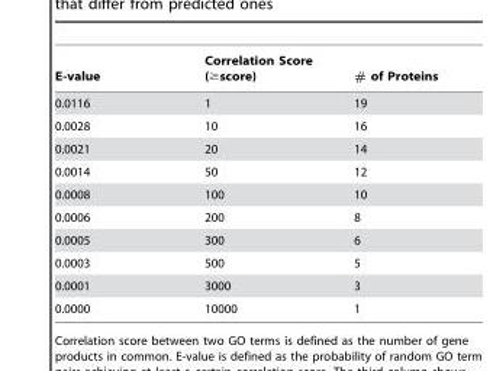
<table><thead><tr><td>E-value</td><td>Correlation Score (≥score)</td><td># of Proteins</td></tr></thead><tbody><tr><td>0.0116</td><td>1</td><td>19</td></tr><tr><td>0.0028</td><td>10</td><td>16</td></tr><tr><td>0.0021</td><td>20</td><td>14</td></tr><tr><td>0.0014</td><td>50</td><td>12</td></tr><tr><td>0.0008</td><td>100</td><td>10</td></tr><tr><td>0.0006</td><td>200</td><td>8</td></tr><tr><td>0.0005</td><td>300</td><td>6</td></tr><tr><td>0.0003</td><td>500</td><td>5</td></tr><tr><td>0.0001</td><td>3000</td><td>3</td></tr><tr><td>0.0000</td><td>10000</td><td>1</td></tr></tbody></table>